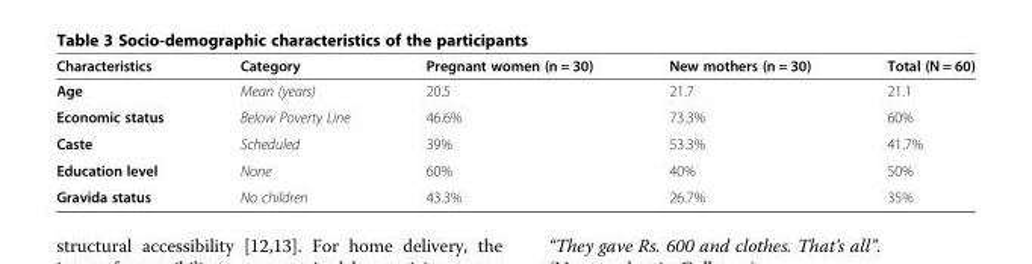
<table><thead><tr><td>Characteristics</td><td>Category</td><td>Pregnant women (n = 30)</td><td>New mothers (n = 30)</td><td>Total (N = 60)</td></tr></thead><tbody><tr><td>Age</td><td>Mean (years)</td><td>20.5</td><td>21.7</td><td>21.1</td></tr><tr><td>Economic status</td><td>Below Poverty Line</td><td>46.6%</td><td>73.3%</td><td>60%</td></tr><tr><td>Caste</td><td>Scheduled</td><td>39%</td><td>53.3%</td><td>41.7%</td></tr><tr><td>Education level</td><td>None</td><td>60%</td><td>40%</td><td>50%</td></tr><tr><td>Gravida status</td><td>No children</td><td>43.3%</td><td>26.7%</td><td>35%</td></tr></tbody></table>